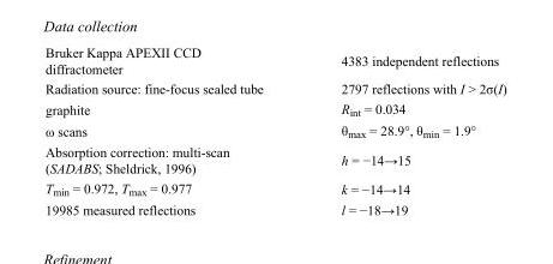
<table><tbody><tr><td>Bruker Kappa APEXII CCD diffractometer</td><td>4383 independent reflections</td></tr><tr><td>Radiation source: fine-focus sealed tube</td><td>2797 reflections with I &gt; 2σ(I)</td></tr><tr><td>graphite</td><td>R<sub>int</sub> = 0.034</td></tr><tr><td>ω scans</td><td>θ<sub>max</sub> = 28.9°, θ<sub>min</sub> = 1.9°</td></tr><tr><td>Absorption correction: multi-scan (SADABS; Sheldrick, 1996)</td><td>h = −14→15</td></tr><tr><td>T<sub>min</sub> = 0.972, T<sub>max</sub> = 0.977</td><td>k = −14→14</td></tr><tr><td>19985 measured reflections</td><td>l = −18→19</td></tr></tbody></table>